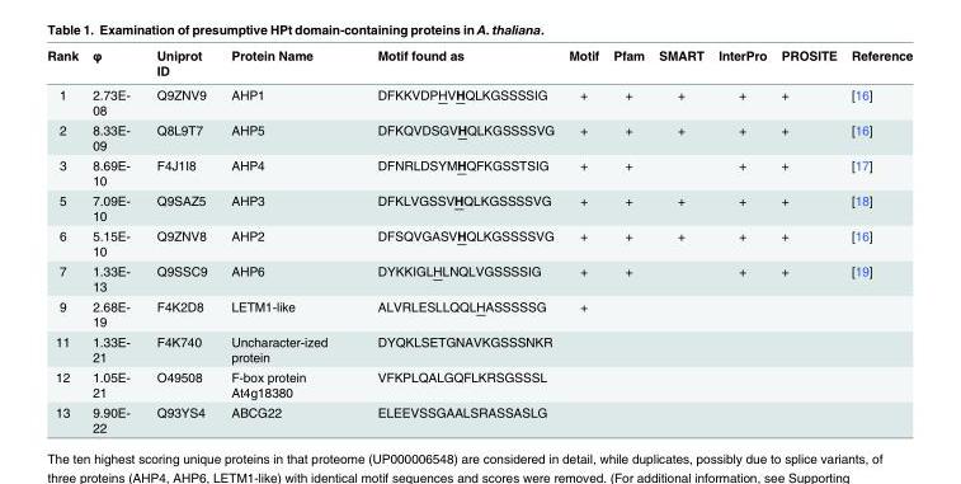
<table><thead><tr><td>Rank</td><td>φ</td><td>Uniprot ID</td><td>Protein Name</td><td>Motif found as</td><td>Motif</td><td>Pfam</td><td>SMART</td><td>InterPro</td><td>PROSITE</td><td>Reference</td></tr></thead><tbody><tr><td>1</td><td>2.73E- 08</td><td>Q9ZNV9</td><td>AHP1</td><td>DFKKVDPHVHQLKGSSSSIG</td><td>+</td><td>+</td><td>+</td><td>+</td><td>+</td><td>[16]</td></tr><tr><td>2</td><td>8.33E- 09</td><td>Q8L9T7</td><td>AHP5</td><td>DFKQVDSGVHQLKGSSSSVG</td><td>+</td><td>+</td><td>+</td><td>+</td><td>+</td><td>[16]</td></tr><tr><td>3</td><td>8.69E- 10</td><td>F4J1I8</td><td>AHP4</td><td>DFNRLDSYMHQFKGSSTSIG</td><td>+</td><td>+</td><td></td><td>+</td><td>+</td><td>[17]</td></tr><tr><td>5</td><td>7.09E- 10</td><td>Q9SAZ5</td><td>AHP3</td><td>DFKLVGSSVHQLKGSSSSVG</td><td>+</td><td>+</td><td>+</td><td>+</td><td>+</td><td>[18]</td></tr><tr><td>6</td><td>5.15E- 10</td><td>Q9ZNV8</td><td>AHP2</td><td>DFSQVGASVHQLKGSSSSVG</td><td>+</td><td>+</td><td>+</td><td>+</td><td>+</td><td>[16]</td></tr><tr><td>7</td><td>1.33E- 13</td><td>Q9SSC9</td><td>AHP6</td><td>DYKKIGLHLNQLVGSSSSIG</td><td>+</td><td>+</td><td></td><td>+</td><td>+</td><td>[19]</td></tr><tr><td>9</td><td>2.68E- 19</td><td>F4K2D8</td><td>LETM1-like</td><td>ALVRLESLLQQLHASSSSSG</td><td>+</td><td></td><td></td><td></td><td></td><td></td></tr><tr><td>11</td><td>1.33E- 21</td><td>F4K740</td><td>Uncharacter-ized protein</td><td>DYQKLSETGNAVKGSSSNKR</td><td></td><td></td><td></td><td></td><td></td><td></td></tr><tr><td>12</td><td>1.05E- 21</td><td>O49508</td><td>F-box protein At4g18380</td><td>VFKPLQALGQFLKRSGSSSL</td><td></td><td></td><td></td><td></td><td></td><td></td></tr><tr><td>13</td><td>9.90E- 22</td><td>Q93YS4</td><td>ABCG22</td><td>ELEEVSSGAALSRASSASLG</td><td></td><td></td><td></td><td></td><td></td><td></td></tr></tbody></table>